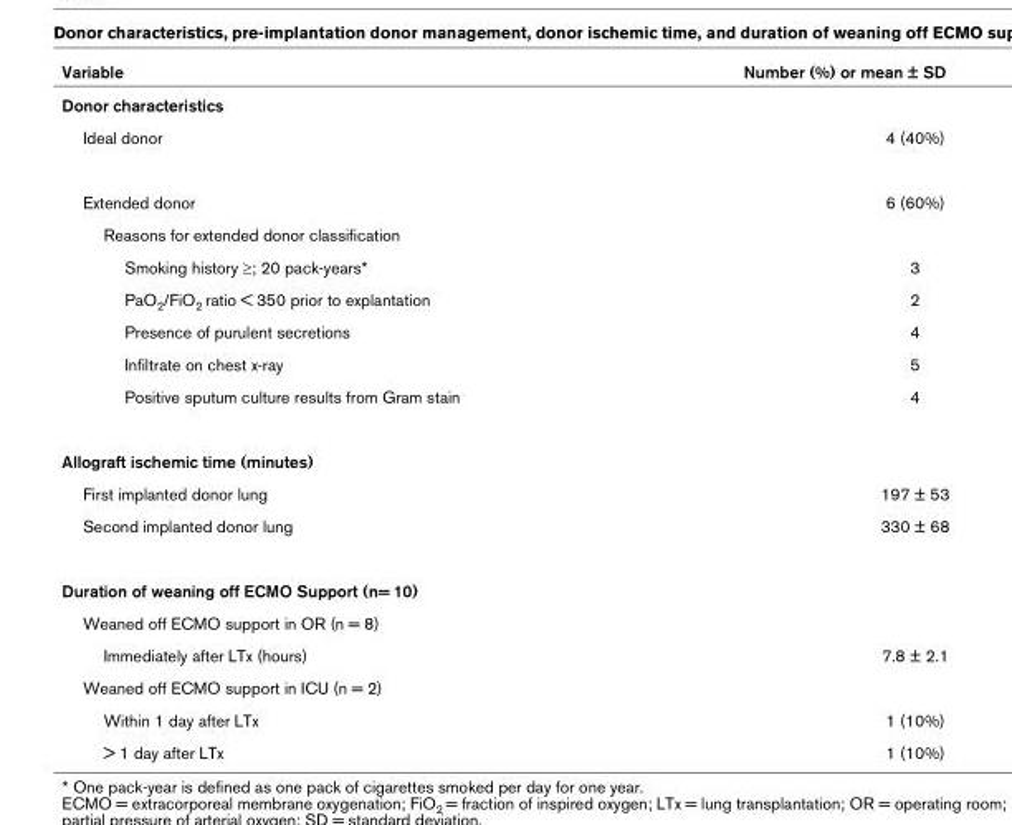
<table><thead><tr><td>Variable</td><td>Number (%) or mean ± SD</td></tr></thead><tbody><tr><td colspan="2">Donor characteristics</td></tr><tr><td>Ideal donor</td><td>4 (40%)</td></tr><tr><td>Extended donor</td><td>6 (60%)</td></tr><tr><td colspan="2">Reasons for extended donor classification</td></tr><tr><td>Smoking history ≥; 20 pack-years*</td><td>3</td></tr><tr><td>PaO<sub>2</sub>/FiO<sub>2</sub> ratio &lt; 350 prior to explantation</td><td>2</td></tr><tr><td>Presence of purulent secretions</td><td>4</td></tr><tr><td>Infiltrate on chest x-ray</td><td>5</td></tr><tr><td>Positive sputum culture results from Gram stain</td><td>4</td></tr><tr><td colspan="2">Allograft ischemic time (minutes)</td></tr><tr><td>First implanted donor lung</td><td>197 ± 53</td></tr><tr><td>Second implanted donor lung</td><td>330 ± 68</td></tr><tr><td colspan="2">Duration of weaning off ECMO Support (n= 10)</td></tr><tr><td colspan="2">Weaned off ECMO support in OR (n = 8)</td></tr><tr><td>Immediately after LTx (hours)</td><td>7.8 ± 2.1</td></tr><tr><td colspan="2">Weaned off ECMO support in ICU (n = 2)</td></tr><tr><td>Within 1 day after LTx</td><td>1 (10%)</td></tr><tr><td>&gt; 1 day after LTx</td><td>1 (10%)</td></tr></tbody></table>